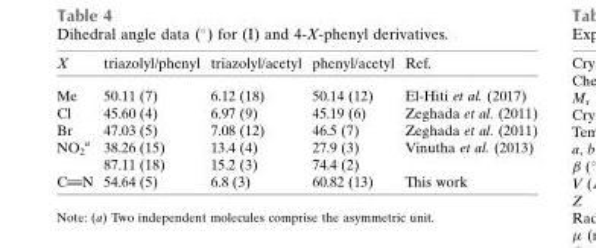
<table><thead><tr><td>X</td><td>triazolyl/phenyl</td><td>triazolyl/acetyl</td><td>phenyl/acetyl</td><td>Ref.</td></tr></thead><tbody><tr><td>Me</td><td>50.11 (7)</td><td>6.12 (18)</td><td>50.14 (12)</td><td>El-Hiti et al. (2017)</td></tr><tr><td>Cl</td><td>45.60 (4)</td><td>6.97 (9)</td><td>45.19 (6)</td><td>Zeghada et al. (2011)</td></tr><tr><td>Br</td><td>47.03 (5)</td><td>7.08 (12)</td><td>46.5 (7)</td><td>Zeghada et al. (2011)</td></tr><tr><td rowspan="2">NO<sub>2</sub> <sup>a</sup></td><td>38.26 (15)</td><td>13.4 (4)</td><td>27.9 (3)</td><td>Vinutha et al. (2013)</td></tr><tr><td>87.11 (18)</td><td>15.2 (3)</td><td>74.4 (2)</td><td></td></tr><tr><td>C N</td><td>54.64 (5)</td><td>6.8 (3)</td><td>60.82 (13)</td><td>This work</td></tr></tbody></table>